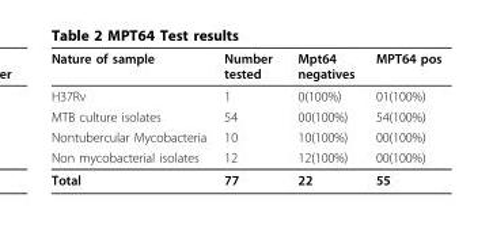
<table><thead><tr><td>Nature of sample</td><td>Number tested</td><td>Mpt64 negatives</td><td>MPT64 pos</td></tr></thead><tbody><tr><td>H37Rv</td><td>1</td><td>0(100%)</td><td>01(100%)</td></tr><tr><td>MTB culture isolates</td><td>54</td><td>00(100%)</td><td>54(100%)</td></tr><tr><td>Nontubercular Mycobacteria</td><td>10</td><td>10(100%)</td><td>00(100%)</td></tr><tr><td>Non mycobacterial isolates</td><td>12</td><td>12(100%)</td><td>00(100%)</td></tr><tr><td>Total</td><td>77</td><td>22</td><td>55</td></tr></tbody></table>